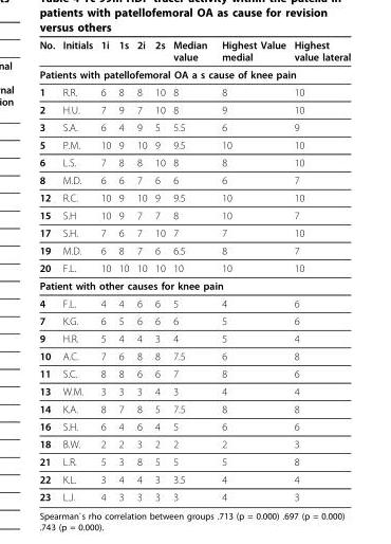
<table><thead><tr><td>No.</td><td>Initials</td><td>1i</td><td>1s</td><td>2i</td><td>2s</td><td>Median value</td><td>Highest Value medial</td><td>Highest value lateral</td></tr></thead><tbody><tr><td colspan="9">Patients with patellofemoral OA a s cause of knee pain</td></tr><tr><td>1</td><td>R.R.</td><td>6</td><td>8</td><td>8</td><td>10</td><td>8</td><td>8</td><td>10</td></tr><tr><td>2</td><td>H.U.</td><td>7</td><td>9</td><td>7</td><td>10</td><td>8</td><td>9</td><td>10</td></tr><tr><td>3</td><td>S.A.</td><td>6</td><td>4</td><td>9</td><td>5</td><td>5.5</td><td>6</td><td>9</td></tr><tr><td>5</td><td>P.M.</td><td>10</td><td>9</td><td>10</td><td>9</td><td>9.5</td><td>10</td><td>10</td></tr><tr><td>6</td><td>L.S.</td><td>7</td><td>8</td><td>8</td><td>10</td><td>8</td><td>8</td><td>10</td></tr><tr><td>8</td><td>M.D.</td><td>6</td><td>6</td><td>7</td><td>6</td><td>6</td><td>6</td><td>7</td></tr><tr><td>12</td><td>R.C.</td><td>10</td><td>9</td><td>10</td><td>9</td><td>9.5</td><td>10</td><td>10</td></tr><tr><td>15</td><td>S.H</td><td>10</td><td>9</td><td>7</td><td>7</td><td>8</td><td>10</td><td>7</td></tr><tr><td>17</td><td>S.H.</td><td>7</td><td>6</td><td>7</td><td>10</td><td>7</td><td>7</td><td>10</td></tr><tr><td>19</td><td>M.D.</td><td>6</td><td>8</td><td>7</td><td>6</td><td>6.5</td><td>8</td><td>7</td></tr><tr><td>20</td><td>F.L.</td><td>10</td><td>10</td><td>10</td><td>10</td><td>10</td><td>10</td><td>10</td></tr><tr><td colspan="9">Patient with other causes for knee pain</td></tr><tr><td>4</td><td>F.L.</td><td>4</td><td>4</td><td>6</td><td>6</td><td>5</td><td>4</td><td>6</td></tr><tr><td>7</td><td>K.G.</td><td>6</td><td>5</td><td>6</td><td>6</td><td>6</td><td>5</td><td>6</td></tr><tr><td>9</td><td>H.R.</td><td>5</td><td>4</td><td>4</td><td>3</td><td>4</td><td>5</td><td>4</td></tr><tr><td>10</td><td>A.C.</td><td>7</td><td>6</td><td>8</td><td>8</td><td>7.5</td><td>6</td><td>8</td></tr><tr><td>11</td><td>S.C.</td><td>8</td><td>8</td><td>6</td><td>6</td><td>7</td><td>8</td><td>6</td></tr><tr><td>13</td><td>W.M.</td><td>3</td><td>3</td><td>3</td><td>4</td><td>3</td><td>4</td><td>4</td></tr><tr><td>14</td><td>K.A.</td><td>8</td><td>7</td><td>8</td><td>5</td><td>7.5</td><td>8</td><td>8</td></tr><tr><td>16</td><td>S.H.</td><td>6</td><td>4</td><td>6</td><td>4</td><td>5</td><td>6</td><td>6</td></tr><tr><td>18</td><td>B.W.</td><td>2</td><td>2</td><td>3</td><td>2</td><td>2</td><td>2</td><td>3</td></tr><tr><td>21</td><td>L.R.</td><td>5</td><td>3</td><td>8</td><td>5</td><td>5</td><td>5</td><td>8</td></tr><tr><td>22</td><td>K.L.</td><td>3</td><td>4</td><td>4</td><td>3</td><td>3.5</td><td>4</td><td>4</td></tr><tr><td>23</td><td>L.J.</td><td>4</td><td>3</td><td>3</td><td>3</td><td>3</td><td>4</td><td>3</td></tr></tbody></table>